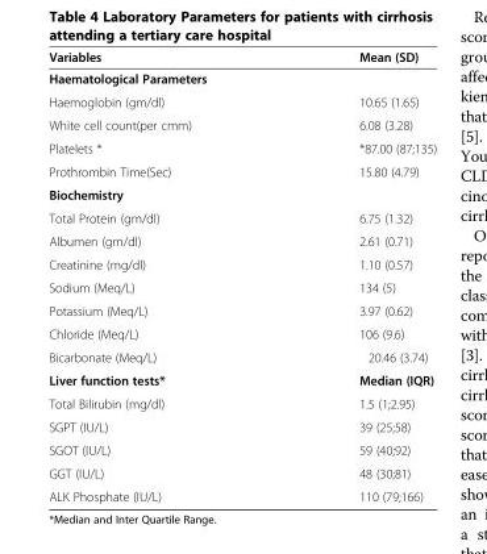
<table><thead><tr><td>Variables</td><td>Mean (SD)</td></tr></thead><tbody><tr><td colspan="2">Haematological Parameters</td></tr><tr><td>Haemoglobin (gm/dl)</td><td>10.65 (1.65)</td></tr><tr><td>White cell count(per cmm)</td><td>6.08 (3.28)</td></tr><tr><td>Platelets *</td><td>*87.00 (87;135)</td></tr><tr><td>Prothrombin Time(Sec)</td><td>15.80 (4.79)</td></tr><tr><td colspan="2">Biochemistry</td></tr><tr><td>Total Protein (gm/dl)</td><td>6.75 (1.32)</td></tr><tr><td>Albumen (gm/dl)</td><td>2.61 (0.71)</td></tr><tr><td>Creatinine (mg/dl)</td><td>1.10 (0.57)</td></tr><tr><td>Sodium (Meq/L)</td><td>134 (5)</td></tr><tr><td>Potassium (Meq/L)</td><td>3.97 (0.62)</td></tr><tr><td>Chloride (Meq/L)</td><td>106 (9.6)</td></tr><tr><td>Bicarbonate (Meq/L)</td><td>20.46 (3.74)</td></tr><tr><td>Liver function tests*</td><td>Median (IQR)</td></tr><tr><td>Total Bilirubin (mg/dl)</td><td>1.5 (1;2.95)</td></tr><tr><td>SGPT (IU/L)</td><td>39 (25;58)</td></tr><tr><td>SGOT (IU/L)</td><td>59 (40;92)</td></tr><tr><td>GGT (IU/L)</td><td>48 (30;81)</td></tr><tr><td>ALK Phosphate (IU/L)</td><td>110 (79;166)</td></tr></tbody></table>